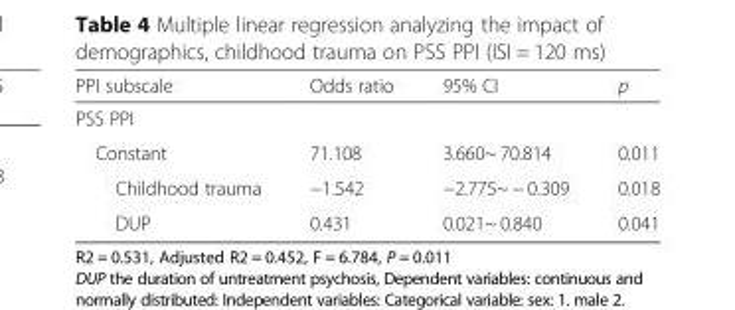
<table><thead><tr><td>PPI subscale</td><td>Odds ratio</td><td>95% CI</td><td>p</td></tr></thead><tbody><tr><td colspan="4">PSS PPI</td></tr><tr><td>Constant</td><td>71.108</td><td>3.660~ 70.814</td><td>0.011</td></tr><tr><td>Childhood trauma</td><td>−1.542</td><td>−2.775~ − 0.309</td><td>0.018</td></tr><tr><td>DUP</td><td>0.431</td><td>0.021~ 0.840</td><td>0.041</td></tr></tbody></table>